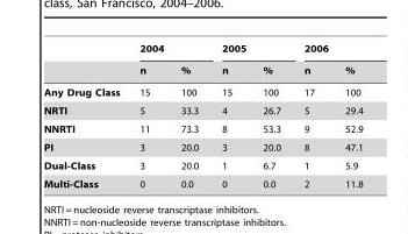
<table><thead><tr><td rowspan="2"></td><td colspan="2">2004</td><td colspan="2">2005</td><td colspan="2">2006</td></tr><tr><td>n</td><td>%</td><td>n</td><td>%</td><td>n</td><td>%</td></tr></thead><tbody><tr><td>Any Drug Class</td><td>15</td><td>100</td><td>15</td><td>100</td><td>17</td><td>100</td></tr><tr><td>NRTI</td><td>5</td><td>33.3</td><td>4</td><td>26.7</td><td>5</td><td>29.4</td></tr><tr><td>NNRTI</td><td>11</td><td>73.3</td><td>8</td><td>53.3</td><td>9</td><td>52.9</td></tr><tr><td>PI</td><td>3</td><td>20.0</td><td>3</td><td>20.0</td><td>8</td><td>47.1</td></tr><tr><td>Dual-Class</td><td>3</td><td>20.0</td><td>1</td><td>6.7</td><td>1</td><td>5.9</td></tr><tr><td>Multi-Class</td><td>0</td><td>0.0</td><td>0</td><td>0.0</td><td>2</td><td>11.8</td></tr></tbody></table>